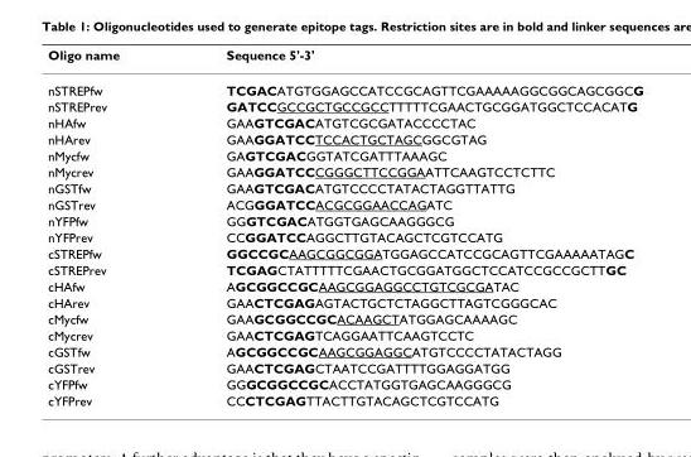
<table><thead><tr><td>Oligo name</td><td>Sequence 5&#x27;-3&#x27;</td></tr></thead><tbody><tr><td>nSTREPfw</td><td>TCGACATGTGGAGCCATCCGCAGTTCGAAAAAGGCGGCAGCGGCG</td></tr><tr><td>nSTREPrev</td><td>GATCCGCCGCTGCCGCCTTTTTCGAACTGCGGATGGCTCCACATG</td></tr><tr><td>nHAfw</td><td>GAAGTCGACATGTCGCGATACCCCTAC</td></tr><tr><td>nHArev</td><td>GAAGGATCCTCCACTGCTAGCGGCGTAG</td></tr><tr><td>nMycfw</td><td>GAGTCGACGGTATCGATTTAAAGC</td></tr><tr><td>nMycrev</td><td>GAAGGATCCCGGGCTTCCGGAATTCAAGTCCTCTTC</td></tr><tr><td>nGSTfw</td><td>GAAGTCGACATGTCCCCTATACTAGGTTATTG</td></tr><tr><td>nGSTrev</td><td>ACGGGATCCACGCGGAACCAGATC</td></tr><tr><td>nYFPfw</td><td>GGGTCGACATGGTGAGCAAGGGCG</td></tr><tr><td>nYFPrev</td><td>CCGGATCCAGGCTTGTACAGCTCGTCCATG</td></tr><tr><td>cSTREPfw</td><td>GGCCGCAAGCGGCGGATGGAGCCATCCGCAGTTCGAAAAATAGC</td></tr><tr><td>cSTREPrev</td><td>TCGAGCTATTTTTCGAACTGCGGATGGCTCCATCCGCCGCTTGC</td></tr><tr><td>cHAfw</td><td>AGCGGCCGCAAGCGGAGGCCTGTCGCGATAC</td></tr><tr><td>cHArev</td><td>GAACTCGAGAGTACTGCTCTAGGCTTAGTCGGGCAC</td></tr><tr><td>cMycfw</td><td>GAAGCGGCCGCACAAGCTATGGAGCAAAAGC</td></tr><tr><td>cMycrev</td><td>GAACTCGAGTCAGGAATTCAAGTCCTC</td></tr><tr><td>cGSTfw</td><td>AGCGGCCGCAAGCGGAGGCATGTCCCCTATACTAGG</td></tr><tr><td>cGSTrev</td><td>GAACTCGAGCTAATCCGATTTTGGAGGATGG</td></tr><tr><td>cYFPfw</td><td>GGGCGGCCGCACCTATGGTGAGCAAGGGCG</td></tr><tr><td>cYFPrev</td><td>CCCTCGAGTTACTTGTACAGCTCGTCCATG</td></tr></tbody></table>